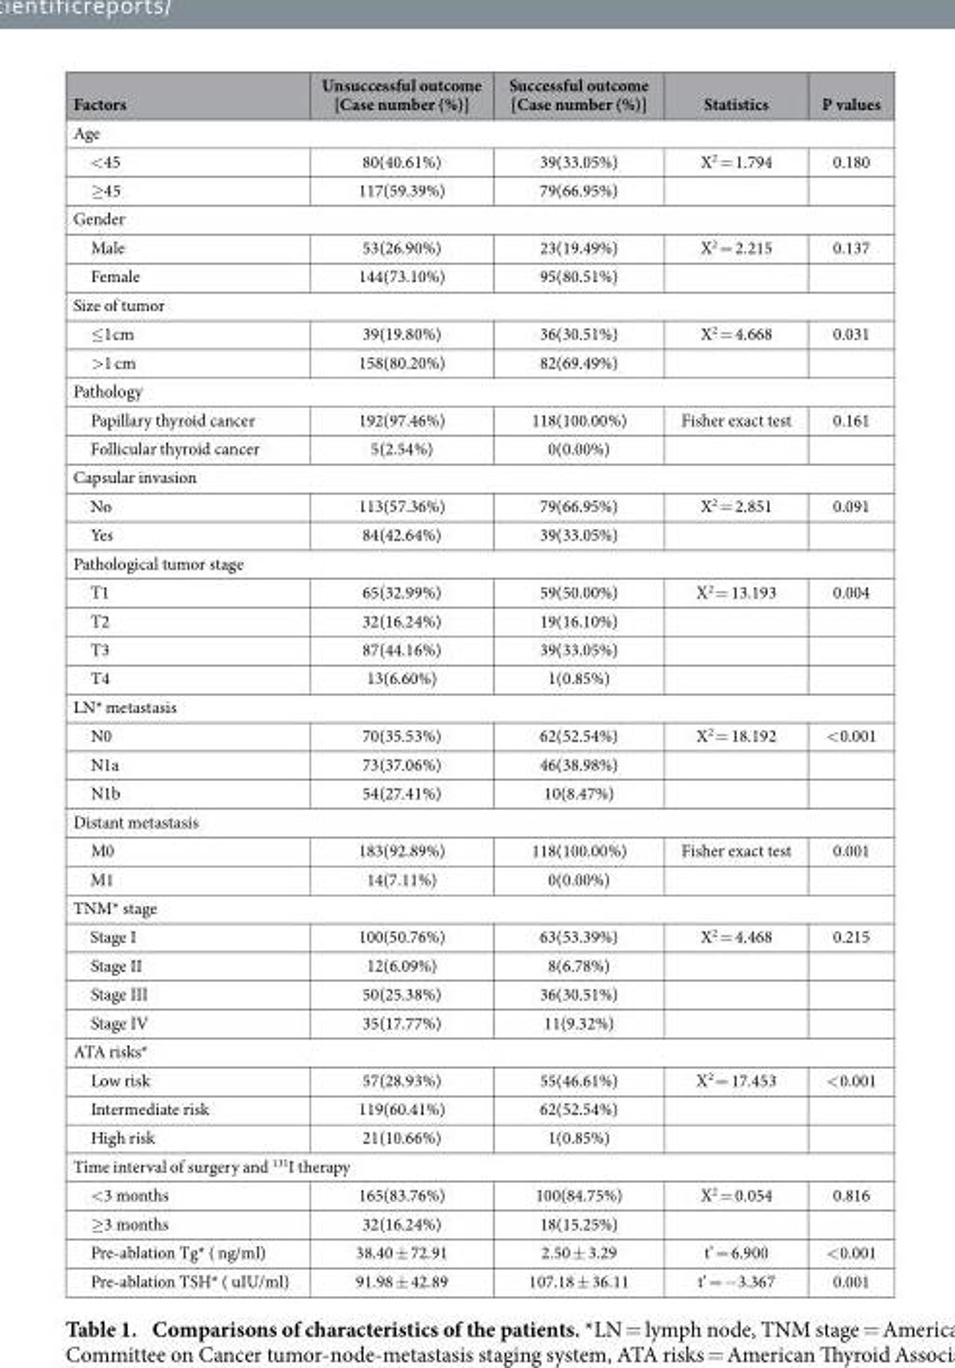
<table><thead><tr><td>Factors</td><td>Unsuccessful outcome [Case number (%)]</td><td>Successful outcome [Case number (%)]</td><td>Statistics</td><td>P values</td></tr></thead><tbody><tr><td colspan="5">Age</td></tr><tr><td>&lt; 45</td><td>80(40.61%)</td><td>39(33.05%)</td><td>X<sup>2</sup> = 1.794</td><td>0.180</td></tr><tr><td>≥ 45</td><td>117(59.39%)</td><td>79(66.95%)</td><td></td><td></td></tr><tr><td colspan="5">Gender</td></tr><tr><td>Male</td><td>53(26.90%)</td><td>23(19.49%)</td><td>X<sup>2</sup> = 2.215</td><td>0.137</td></tr><tr><td>Female</td><td>144(73.10%)</td><td>95(80.51%)</td><td></td><td></td></tr><tr><td colspan="5">Size of tumor</td></tr><tr><td>≤ 1cm</td><td>39(19.80%)</td><td>36(30.51%)</td><td>X<sup>2</sup> = 4.668</td><td>0.031</td></tr><tr><td>&gt; 1 cm</td><td>158(80.20%)</td><td>82(69.49%)</td><td></td><td></td></tr><tr><td colspan="5">Pathology</td></tr><tr><td>Papillary thyroid cancer</td><td>192(97.46%)</td><td>118(100.00%)</td><td>Fisher exact test</td><td>0.161</td></tr><tr><td>Follicular thyroid cancer</td><td>5(2.54%)</td><td>0(0.00%)</td><td></td><td></td></tr><tr><td colspan="5">Capsular invasion</td></tr><tr><td>No</td><td>113(57.36%)</td><td>79(66.95%)</td><td>X<sup>2</sup> = 2.851</td><td>0.091</td></tr><tr><td>Yes</td><td>84(42.64%)</td><td>39(33.05%)</td><td></td><td></td></tr><tr><td colspan="5">Pathological tumor stage</td></tr><tr><td>T1</td><td>65(32.99%)</td><td>59(50.00%)</td><td>X<sup>2</sup> = 13.193</td><td>0.004</td></tr><tr><td>T2</td><td>32(16.24%)</td><td>19(16.10%)</td><td></td><td></td></tr><tr><td>T3</td><td>87(44.16%)</td><td>39(33.05%)</td><td></td><td></td></tr><tr><td>T4</td><td>13(6.60%)</td><td>1(0.85%)</td><td></td><td></td></tr><tr><td colspan="5">LN* metastasis</td></tr><tr><td>N0</td><td>70(35.53%)</td><td>62(52.54%)</td><td>X<sup>2</sup> = 18.192</td><td>&lt; 0.001</td></tr><tr><td>N1a</td><td>73(37.06%)</td><td>46(38.98%)</td><td></td><td></td></tr><tr><td>N1b</td><td>54(27.41%)</td><td>10(8.47%)</td><td></td><td></td></tr><tr><td colspan="5">Distant metastasis</td></tr><tr><td>M0</td><td>183(92.89%)</td><td>118(100.00%)</td><td>Fisher exact test</td><td>0.001</td></tr><tr><td>M1</td><td>14(7.11%)</td><td>0(0.00%)</td><td></td><td></td></tr><tr><td colspan="5">TNM* stage</td></tr><tr><td>Stage I</td><td>100(50.76%)</td><td>63(53.39%)</td><td>X<sup>2</sup> = 4.468</td><td>0.215</td></tr><tr><td>Stage II</td><td>12(6.09%)</td><td>8(6.78%)</td><td></td><td></td></tr><tr><td>Stage III</td><td>50(25.38%)</td><td>36(30.51%)</td><td></td><td></td></tr><tr><td>Stage IV</td><td>35(17.77%)</td><td>11(9.32%)</td><td></td><td></td></tr><tr><td colspan="5">ATA risks*</td></tr><tr><td>Low risk</td><td>57(28.93%)</td><td>55(46.61%)</td><td>X<sup>2</sup> = 17.453</td><td>&lt; 0.001</td></tr><tr><td>Intermediate risk</td><td>119(60.41%)</td><td>62(52.54%)</td><td></td><td></td></tr><tr><td>High risk</td><td>21(10.66%)</td><td>1(0.85%)</td><td></td><td></td></tr><tr><td colspan="5">Time interval of surgery and <sup>131</sup>I therapy</td></tr><tr><td>&lt; 3 months</td><td>165(83.76%)</td><td>100(84.75%)</td><td>X<sup>2</sup> = 0.054</td><td>0.816</td></tr><tr><td>≥ 3 months</td><td>32(16.24%)</td><td>18(15.25%)</td><td></td><td></td></tr><tr><td>Pre-ablation Tg* ( ng/ml)</td><td>38.40 ± 72.91</td><td>2.50 ± 3.29</td><td>t’ = 6.900</td><td>&lt; 0.001</td></tr><tr><td>Pre-ablation TSH* ( uIU/ml)</td><td>91.98 ± 42.89</td><td>107.18 ± 36.11</td><td>t’ = − 3.367</td><td>0.001</td></tr></tbody></table>